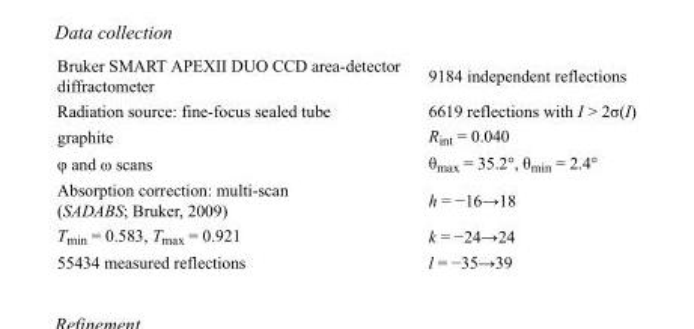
<table><tbody><tr><td>Bruker SMART APEXII DUO CCD area-detector diffractometer</td><td>9184 independent reflections</td></tr><tr><td>Radiation source: fine-focus sealed tube</td><td>6619 reflections with I &gt; 2σ(I)</td></tr><tr><td>graphite</td><td>R<sub>int</sub> = 0.040</td></tr><tr><td>φ and ω scans</td><td>θ<sub>max</sub> = 35.2°, θ<sub>min</sub> = 2.4°</td></tr><tr><td>Absorption correction: multi-scan (SADABS; Bruker, 2009)</td><td>h = −16→18</td></tr><tr><td>T<sub>min</sub> = 0.583, T<sub>max</sub> = 0.921</td><td>k = −24→24</td></tr><tr><td>55434 measured reflections</td><td>l = −35→39</td></tr></tbody></table>